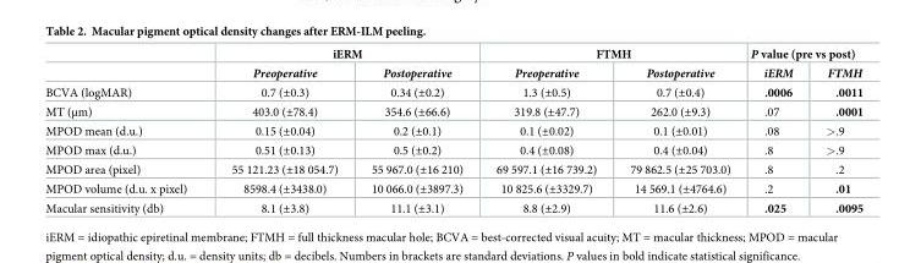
<table><thead><tr><td rowspan="2"></td><td colspan="2">iERM</td><td colspan="2">FTMH</td><td colspan="2">P value (pre vs post)</td></tr><tr><td>Preoperative</td><td>Postoperative</td><td>Preoperative</td><td>Postoperative</td><td>iERM</td><td>FTMH</td></tr></thead><tbody><tr><td>BCVA (logMAR)</td><td>0.7 (±0.3)</td><td>0.34 (±0.2)</td><td>1.3 (±0.5)</td><td>0.7 (±0.4)</td><td>.0006</td><td>.0011</td></tr><tr><td>MT (μm)</td><td>403.0 (±78.4)</td><td>354.6 (±66.6)</td><td>319.8 (±47.7)</td><td>262.0 (±9.3)</td><td>.07</td><td>.0001</td></tr><tr><td>MPOD mean (d.u.)</td><td>0.15 (±0.04)</td><td>0.2 (±0.1)</td><td>0.1 (±0.02)</td><td>0.1 (±0.01)</td><td>.08</td><td>&gt;.9</td></tr><tr><td>MPOD max (d.u.)</td><td>0.51 (±0.13)</td><td>0.5 (±0.2)</td><td>0.4 (±0.08)</td><td>0.4 (±0.04)</td><td>.8</td><td>&gt;.9</td></tr><tr><td>MPOD area (pixel)</td><td>55 121.23 (±18 054.7)</td><td>55 967.0 (±16 210)</td><td>69 597.1 (±16 739.2)</td><td>79 862.5 (±25 703.0)</td><td>.8</td><td>.2</td></tr><tr><td>MPOD volume (d.u. x pixel)</td><td>8598.4 (±3438.0)</td><td>10 066.0 (±3897.3)</td><td>10 825.6 (±3329.7)</td><td>14 569.1 (±4764.6)</td><td>.2</td><td>.01</td></tr><tr><td>Macular sensitivity (db)</td><td>8.1 (±3.8)</td><td>11.1 (±3.1)</td><td>8.8 (±2.9)</td><td>11.6 (±2.6)</td><td>.025</td><td>.0095</td></tr></tbody></table>